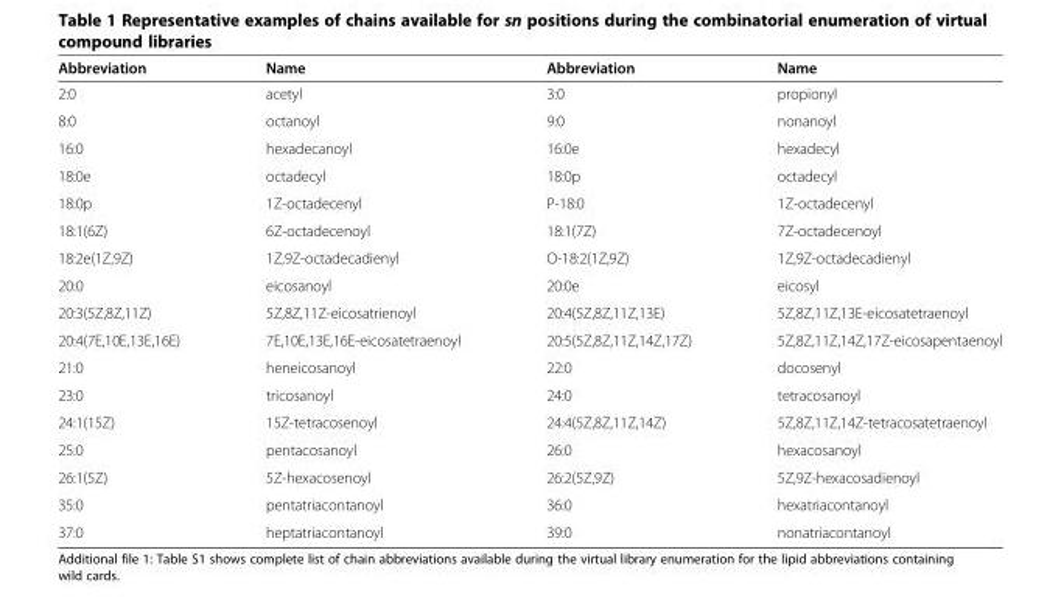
<table><thead><tr><td>Abbreviation</td><td>Name</td><td>Abbreviation</td><td>Name</td></tr></thead><tbody><tr><td>2:0</td><td>acetyl</td><td>3:0</td><td>propionyl</td></tr><tr><td>8:0</td><td>octanoyl</td><td>9:0</td><td>nonanoyl</td></tr><tr><td>16:0</td><td>hexadecanoyl</td><td>16:0e</td><td>hexadecyl</td></tr><tr><td>18:0e</td><td>octadecyl</td><td>18:0p</td><td>octadecyl</td></tr><tr><td>18:0p</td><td>1Z-octadecenyl</td><td>P-18:0</td><td>1Z-octadecenyl</td></tr><tr><td>18:1(6Z)</td><td>6Z-octadecenoyl</td><td>18:1(7Z)</td><td>7Z-octadecenoyl</td></tr><tr><td>18:2e(1Z,9Z)</td><td>1Z,9Z-octadecadienyl</td><td>O-18:2(1Z,9Z)</td><td>1Z,9Z-octadecadienyl</td></tr><tr><td>20:0</td><td>eicosanoyl</td><td>20:0e</td><td>eicosyl</td></tr><tr><td>20:3(5Z,8Z,11Z)</td><td>5Z,8Z,11Z-eicosatrienoyl</td><td>20:4(5Z,8Z,11Z,13E)</td><td>5Z,8Z,11Z,13E-eicosatetraenoyl</td></tr><tr><td>20:4(7E,10E,13E,16E)</td><td>7E,10E,13E,16E-eicosatetraenoyl</td><td>20:5(5Z,8Z,11Z,14Z,17Z)</td><td>5Z,8Z,11Z,14Z,17Z-eicosapentaenoyl</td></tr><tr><td>21:0</td><td>heneicosanoyl</td><td>22:0</td><td>docosenyl</td></tr><tr><td>23:0</td><td>tricosanoyl</td><td>24:0</td><td>tetracosanoyl</td></tr><tr><td>24:1(15Z)</td><td>15Z-tetracosenoyl</td><td>24:4(5Z,8Z,11Z,14Z)</td><td>5Z,8Z,11Z,14Z-tetracosatetraenoyl</td></tr><tr><td>25:0</td><td>pentacosanoyl</td><td>26:0</td><td>hexacosanoyl</td></tr><tr><td>26:1(5Z)</td><td>5Z-hexacosenoyl</td><td>26:2(5Z,9Z)</td><td>5Z,9Z-hexacosadienoyl</td></tr><tr><td>35:0</td><td>pentatriacontanoyl</td><td>36:0</td><td>hexatriacontanoyl</td></tr><tr><td>37:0</td><td>heptatriacontanoyl</td><td>39:0</td><td>nonatriacontanoyl</td></tr></tbody></table>